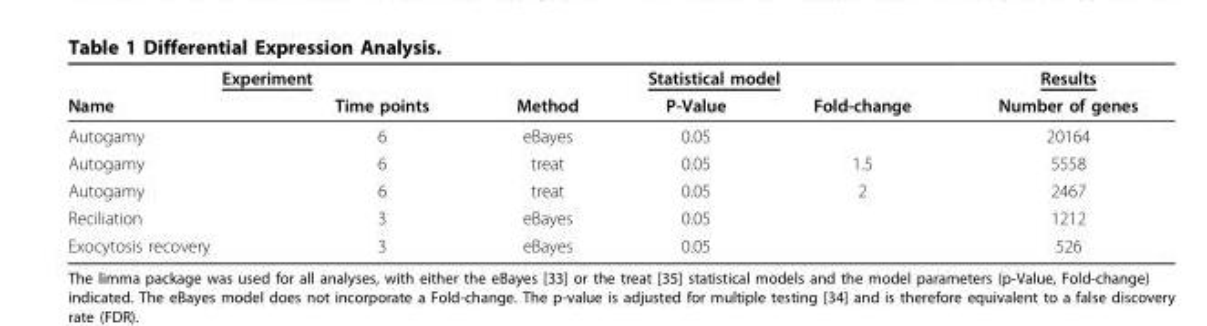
<table><thead><tr><td colspan="2">Experiment</td><td colspan="3">Statistical model</td><td rowspan="2">Results Number of genes</td></tr><tr><td>Name</td><td>Time points</td><td>Method</td><td>P-Value</td><td>Fold-change</td></tr></thead><tbody><tr><td>Autogamy</td><td>6</td><td>eBayes</td><td>0.05</td><td></td><td>20164</td></tr><tr><td>Autogamy</td><td>6</td><td>treat</td><td>0.05</td><td>1.5</td><td>5558</td></tr><tr><td>Autogamy</td><td>6</td><td>treat</td><td>0.05</td><td>2</td><td>2467</td></tr><tr><td>Reciliation</td><td>3</td><td>eBayes</td><td>0.05</td><td></td><td>1212</td></tr><tr><td>Exocytosis recovery</td><td>3</td><td>eBayes</td><td>0.05</td><td></td><td>526</td></tr></tbody></table>